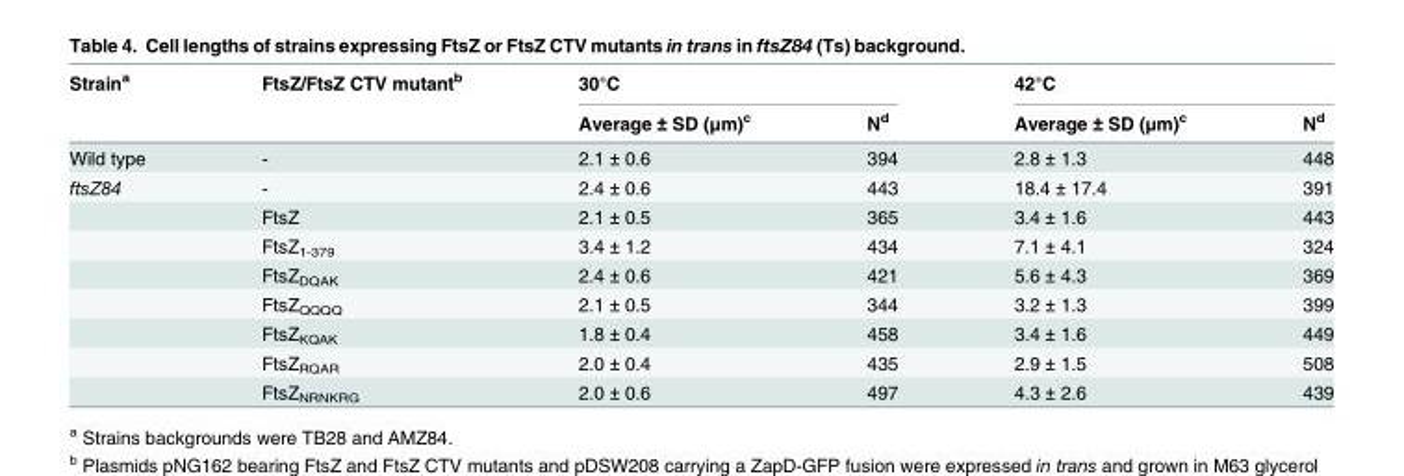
<table><thead><tr><td rowspan="2">Strain<sup>a</sup></td><td rowspan="2">FtsZ/FtsZ CTV mutant<sup>b</sup></td><td colspan="2">30°C</td><td colspan="2">42°C</td></tr><tr><td>Average ± SD (μm)<sup>c</sup></td><td>N<sup>d</sup></td><td>Average ± SD (μm)<sup>c</sup></td><td>N<sup>d</sup></td></tr></thead><tbody><tr><td>Wild type</td><td>-</td><td>2.1 ± 0.6</td><td>394</td><td>2.8 ± 1.3</td><td>448</td></tr><tr><td rowspan="8">ftsZ84</td><td>-</td><td>2.4 ± 0.6</td><td>443</td><td>18.4 ± 17.4</td><td>391</td></tr><tr><td>FtsZ</td><td>2.1 ± 0.5</td><td>365</td><td>3.4 ± 1.6</td><td>443</td></tr><tr><td>FtsZ<sub>1-379</sub></td><td>3.4 ± 1.2</td><td>434</td><td>7.1 ± 4.1</td><td>324</td></tr><tr><td>FtsZ<sub>DQAK</sub></td><td>2.4 ± 0.6</td><td>421</td><td>5.6 ± 4.3</td><td>369</td></tr><tr><td>FtsZ<sub>QQQQ</sub></td><td>2.1 ± 0.5</td><td>344</td><td>3.2 ± 1.3</td><td>399</td></tr><tr><td>FtsZ<sub>KQAK</sub></td><td>1.8 ± 0.4</td><td>458</td><td>3.4 ± 1.6</td><td>449</td></tr><tr><td>FtsZ<sub>RQAR</sub></td><td>2.0 ± 0.4</td><td>435</td><td>2.9 ± 1.5</td><td>508</td></tr><tr><td>FtsZ<sub>NRNKRG</sub></td><td>2.0 ± 0.6</td><td>497</td><td>4.3 ± 2.6</td><td>439</td></tr></tbody></table>